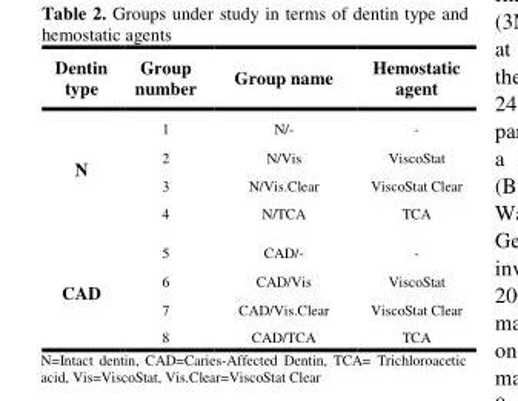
<table><thead><tr><td>Dentin type</td><td>Group number</td><td>Group name</td><td>Hemostatic agent</td></tr></thead><tbody><tr><td rowspan="4">N</td><td>1</td><td>N/-</td><td>-</td></tr><tr><td>2</td><td>N/Vis</td><td>ViscoStat</td></tr><tr><td>3</td><td>N/Vis.Clear</td><td>ViscoStat Clear</td></tr><tr><td>4</td><td>N/TCA</td><td>TCA</td></tr><tr><td rowspan="4">CAD</td><td>5</td><td>CAD/-</td><td>-</td></tr><tr><td>6</td><td>CAD/Vis</td><td>ViscoStat</td></tr><tr><td>7</td><td>CAD/Vis.Clear</td><td>ViscoStat Clear</td></tr><tr><td>8</td><td>CAD/TCA</td><td>TCA</td></tr></tbody></table>